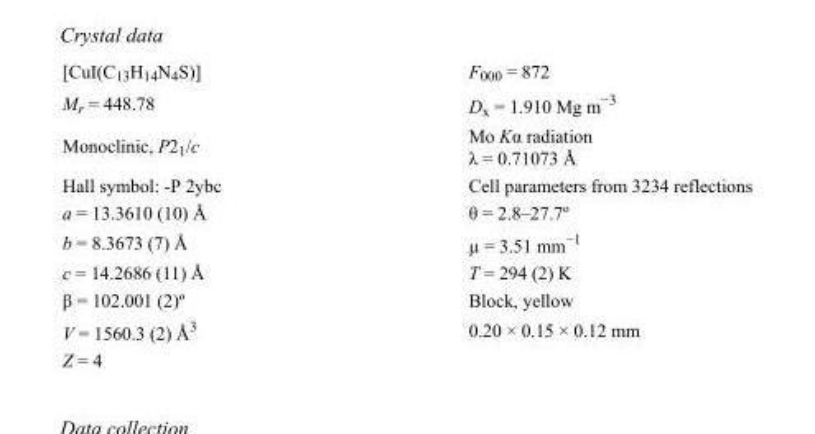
<table><tbody><tr><td>[CuI(C<sub>13</sub>H<sub>14</sub>N<sub>4</sub>S)]</td><td>F000 = 872</td></tr><tr><td>M<sub>r</sub> = 448.78</td><td>D<sub>x</sub> = 1.910 Mg m<sup>−3</sup></td></tr><tr><td>Monoclinic, P2<sub>1</sub>/c</td><td>Mo Kα radiation λ = 0.71073 Å</td></tr><tr><td>Hall symbol: -P 2ybc</td><td>Cell parameters from 3234 reflections</td></tr><tr><td>a = 13.3610 (10) Å</td><td>θ = 2.8–27.7º</td></tr><tr><td>b = 8.3673 (7) Å</td><td>µ = 3.51 mm<sup>−1</sup></td></tr><tr><td>c = 14.2686 (11) Å</td><td>T = 294 (2) K</td></tr><tr><td>β = 102.001 (2)º</td><td>Block, yellow</td></tr><tr><td>V = 1560.3 (2) Å<sup>3</sup></td><td>0.20 × 0.15 × 0.12 mm</td></tr><tr><td>Z = 4</td><td></td></tr></tbody></table>